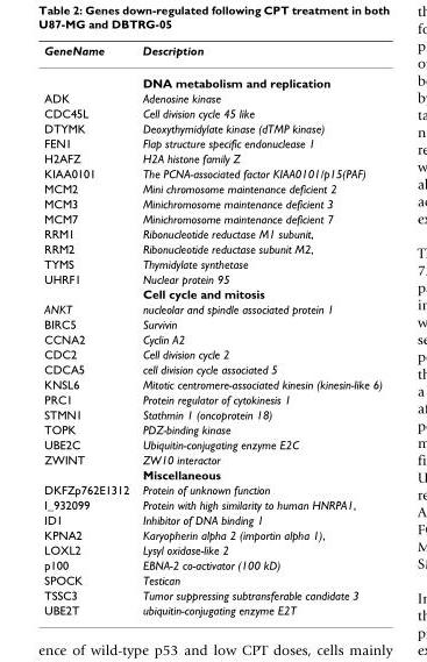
<table><thead><tr><td>GeneName</td><td>Description</td></tr></thead><tbody><tr><td></td><td>DNA metabolism and replication</td></tr><tr><td>ADK</td><td>Adenosine kinase</td></tr><tr><td>CDC45L</td><td>Cell division cycle 45 like</td></tr><tr><td>DTYMK</td><td>Deoxythymidylate kinase (dTMP kinase)</td></tr><tr><td>FEN1</td><td>Flap structure specific endonuclease 1</td></tr><tr><td>H2AFZ</td><td>H2A histone family Z</td></tr><tr><td>KIAA0101</td><td>The PCNA-associated factor KIAA0101/p15(PAF)</td></tr><tr><td>MCM2</td><td>Mini chromosome maintenance deficient 2</td></tr><tr><td>MCM3</td><td>Minichromosome maintenance deficient 3</td></tr><tr><td>MCM7</td><td>Minichromosome maintenance deficient 7</td></tr><tr><td>RRM1</td><td>Ribonucleotide reductase M1 subunit,</td></tr><tr><td>RRM2</td><td>Ribonucleotide reductase subunit M2,</td></tr><tr><td>TYMS</td><td>Thymidylate synthetase</td></tr><tr><td rowspan="2">UHRF1</td><td>Nuclear protein 95</td></tr><tr><td>Cell cycle and mitosis</td></tr><tr><td>ANKT</td><td>nucleolar and spindle associated protein 1</td></tr><tr><td>BIRC5</td><td>Survivin</td></tr><tr><td>CCNA2</td><td>Cyclin A2</td></tr><tr><td>CDC2</td><td>Cell division cycle 2</td></tr><tr><td>CDCA5</td><td>cell division cycle associated 5</td></tr><tr><td>KNSL6</td><td>Mitotic centromere-associated kinesin (kinesin-like 6)</td></tr><tr><td>PRC1</td><td>Protein regulator of cytokinesis 1</td></tr><tr><td>STMN1</td><td>Stathmin 1 (oncoprotein 18)</td></tr><tr><td>TOPK</td><td>PDZ-binding kinase</td></tr><tr><td>UBE2C</td><td>Ubiquitin-conjugating enzyme E2C</td></tr><tr><td rowspan="2">ZWINT</td><td>ZW10 interactor</td></tr><tr><td>Miscellaneous</td></tr><tr><td>DKFZp762E1312</td><td>Protein of unknown function</td></tr><tr><td>I_932099</td><td>Protein with high similarity to human HNRPA1,</td></tr><tr><td>ID1</td><td>Inhibitor of DNA binding 1</td></tr><tr><td>KPNA2</td><td>Karyopherin alpha 2 (importin alpha 1),</td></tr><tr><td>LOXL2</td><td>Lysyl oxidase-like 2</td></tr><tr><td>p100</td><td>EBNA-2 co-activator (100 kD)</td></tr><tr><td>SPOCK</td><td>Testican</td></tr><tr><td>TSSC3</td><td>Tumor suppressing subtransferable candidate 3</td></tr><tr><td>UBE2T</td><td>ubiquitin-conjugating enzyme E2T</td></tr></tbody></table>